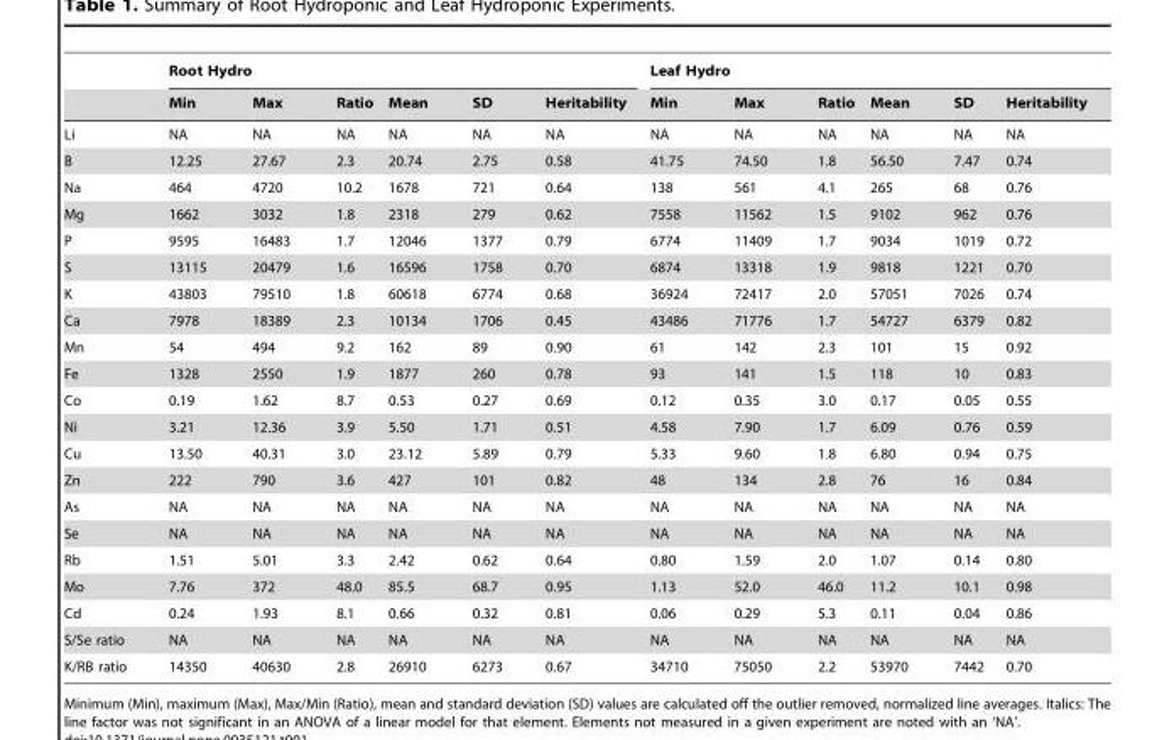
<table><thead><tr><td rowspan="2"></td><td colspan="6">Root Hydro</td><td colspan="6">Leaf Hydro</td></tr><tr><td>Min</td><td>Max</td><td>Ratio</td><td>Mean</td><td>SD</td><td>Heritability</td><td>Min</td><td>Max</td><td>Ratio</td><td>Mean</td><td>SD</td><td>Heritability</td></tr></thead><tbody><tr><td>Li</td><td>NA</td><td>NA</td><td>NA</td><td>NA</td><td>NA</td><td>NA</td><td>NA</td><td>NA</td><td>NA</td><td>NA</td><td>NA</td><td>NA</td></tr><tr><td>B</td><td>12.25</td><td>27.67</td><td>2.3</td><td>20.74</td><td>2.75</td><td>0.58</td><td>41.75</td><td>74.50</td><td>1.8</td><td>56.50</td><td>7.47</td><td>0.74</td></tr><tr><td>Na</td><td>464</td><td>4720</td><td>10.2</td><td>1678</td><td>721</td><td>0.64</td><td>138</td><td>561</td><td>4.1</td><td>265</td><td>68</td><td>0.76</td></tr><tr><td>Mg</td><td>1662</td><td>3032</td><td>1.8</td><td>2318</td><td>279</td><td>0.62</td><td>7558</td><td>11562</td><td>1.5</td><td>9102</td><td>962</td><td>0.76</td></tr><tr><td>P</td><td>9595</td><td>16483</td><td>1.7</td><td>12046</td><td>1377</td><td>0.79</td><td>6774</td><td>11409</td><td>1.7</td><td>9034</td><td>1019</td><td>0.72</td></tr><tr><td>S</td><td>13115</td><td>20479</td><td>1.6</td><td>16596</td><td>1758</td><td>0.70</td><td>6874</td><td>13318</td><td>1.9</td><td>9818</td><td>1221</td><td>0.70</td></tr><tr><td>K</td><td>43803</td><td>79510</td><td>1.8</td><td>60618</td><td>6774</td><td>0.68</td><td>36924</td><td>72417</td><td>2.0</td><td>57051</td><td>7026</td><td>0.74</td></tr><tr><td>Ca</td><td>7978</td><td>18389</td><td>2.3</td><td>10134</td><td>1706</td><td>0.45</td><td>43486</td><td>71776</td><td>1.7</td><td>54727</td><td>6379</td><td>0.82</td></tr><tr><td>Mn</td><td>54</td><td>494</td><td>9.2</td><td>162</td><td>89</td><td>0.90</td><td>61</td><td>142</td><td>2.3</td><td>101</td><td>15</td><td>0.92</td></tr><tr><td>Fe</td><td>1328</td><td>2550</td><td>1.9</td><td>1877</td><td>260</td><td>0.78</td><td>93</td><td>141</td><td>1.5</td><td>118</td><td>10</td><td>0.83</td></tr><tr><td>Co</td><td>0.19</td><td>1.62</td><td>8.7</td><td>0.53</td><td>0.27</td><td>0.69</td><td>0.12</td><td>0.35</td><td>3.0</td><td>0.17</td><td>0.05</td><td>0.55</td></tr><tr><td>Ni</td><td>3.21</td><td>12.36</td><td>3.9</td><td>5.50</td><td>1.71</td><td>0.51</td><td>4.58</td><td>7.90</td><td>1.7</td><td>6.09</td><td>0.76</td><td>0.59</td></tr><tr><td>Cu</td><td>13.50</td><td>40.31</td><td>3.0</td><td>23.12</td><td>5.89</td><td>0.79</td><td>5.33</td><td>9.60</td><td>1.8</td><td>6.80</td><td>0.94</td><td>0.75</td></tr><tr><td>Zn</td><td>222</td><td>790</td><td>3.6</td><td>427</td><td>101</td><td>0.82</td><td>48</td><td>134</td><td>2.8</td><td>76</td><td>16</td><td>0.84</td></tr><tr><td>As</td><td>NA</td><td>NA</td><td>NA</td><td>NA</td><td>NA</td><td>NA</td><td>NA</td><td>NA</td><td>NA</td><td>NA</td><td>NA</td><td>NA</td></tr><tr><td>Se</td><td>NA</td><td>NA</td><td>NA</td><td>NA</td><td>NA</td><td>NA</td><td>NA</td><td>NA</td><td>NA</td><td>NA</td><td>NA</td><td>NA</td></tr><tr><td>Rb</td><td>1.51</td><td>5.01</td><td>3.3</td><td>2.42</td><td>0.62</td><td>0.64</td><td>0.80</td><td>1.59</td><td>2.0</td><td>1.07</td><td>0.14</td><td>0.80</td></tr><tr><td>Mo</td><td>7.76</td><td>372</td><td>48.0</td><td>85.5</td><td>68.7</td><td>0.95</td><td>1.13</td><td>52.0</td><td>46.0</td><td>11.2</td><td>10.1</td><td>0.98</td></tr><tr><td>Cd</td><td>0.24</td><td>1.93</td><td>8.1</td><td>0.66</td><td>0.32</td><td>0.81</td><td>0.06</td><td>0.29</td><td>5.3</td><td>0.11</td><td>0.04</td><td>0.86</td></tr><tr><td>S/Se ratio</td><td>NA</td><td>NA</td><td>NA</td><td>NA</td><td>NA</td><td>NA</td><td>NA</td><td>NA</td><td>NA</td><td>NA</td><td>NA</td><td>NA</td></tr><tr><td>K/RB ratio</td><td>14350</td><td>40630</td><td>2.8</td><td>26910</td><td>6273</td><td>0.67</td><td>34710</td><td>75050</td><td>2.2</td><td>53970</td><td>7442</td><td>0.70</td></tr></tbody></table>